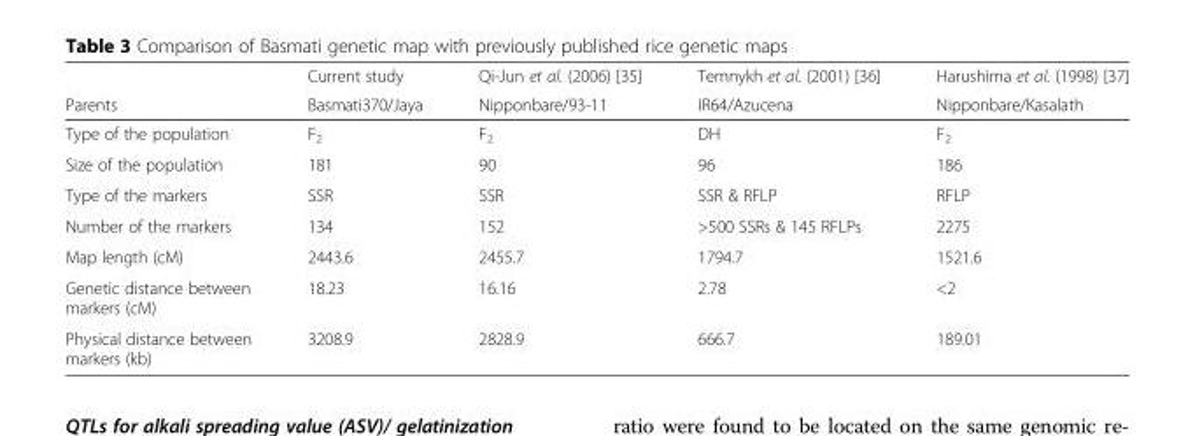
<table><thead><tr><td rowspan="2">Parents</td><td rowspan="2">Current study Basmati370/Jaya</td><td rowspan="2">Qi-Jun et al. (2006) [35] Nipponbare/93-11</td><td rowspan="2">Temnykh et al. (2001) [36] IR64/Azucena</td><td rowspan="2">Harushima et al. (1998) [37] Nipponbare/Kasalath</td></tr><tr></tr></thead><tbody><tr><td>Type of the population</td><td>F<sub>2</sub></td><td>F<sub>2</sub></td><td>DH</td><td>F<sub>2</sub></td></tr><tr><td>Size of the population</td><td>181</td><td>90</td><td>96</td><td>186</td></tr><tr><td>Type of the markers</td><td>SSR</td><td>SSR</td><td>SSR &amp; RFLP</td><td>RFLP</td></tr><tr><td>Number of the markers</td><td>134</td><td>152</td><td>&gt;500 SSRs &amp; 145 RFLPs</td><td>2275</td></tr><tr><td>Map length (cM)</td><td>2443.6</td><td>2455.7</td><td>1794.7</td><td>1521.6</td></tr><tr><td>Genetic distance between markers (cM)</td><td>18.23</td><td>16.16</td><td>2.78</td><td>&lt;2</td></tr><tr><td>Physical distance between markers (kb)</td><td>3208.9</td><td>2828.9</td><td>666.7</td><td>189.01</td></tr></tbody></table>